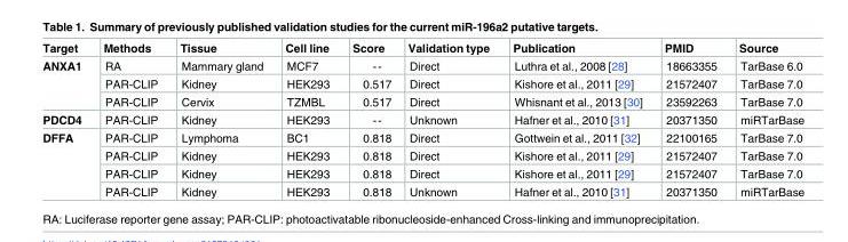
<table><thead><tr><td>Target</td><td>Methods</td><td>Tissue</td><td>Cell line</td><td>Score</td><td>Validation type</td><td>Publication</td><td>PMID</td><td>Source</td></tr></thead><tbody><tr><td rowspan="3">ANXA1</td><td>RA</td><td>Mammary gland</td><td>MCF7</td><td>--</td><td>Direct</td><td>Luthra et al., 2008 [28]</td><td>18663355</td><td>TarBase 6.0</td></tr><tr><td>PAR-CLIP</td><td>Kidney</td><td>HEK293</td><td>0.517</td><td>Direct</td><td>Kishore et al., 2011 [29]</td><td>21572407</td><td>TarBase 7.0</td></tr><tr><td>PAR-CLIP</td><td>Cervix</td><td>TZMBL</td><td>0.517</td><td>Direct</td><td>Whisnant et al., 2013 [30]</td><td>23592263</td><td>TarBase 7.0</td></tr><tr><td>PDCD4</td><td>PAR-CLIP</td><td>Kidney</td><td>HEK293</td><td>--</td><td>Unknown</td><td>Hafner et al., 2010 [31]</td><td>20371350</td><td>miRTarBase</td></tr><tr><td rowspan="4">DFFA</td><td>PAR-CLIP</td><td>Lymphoma</td><td>BC1</td><td>0.818</td><td>Direct</td><td>Gottwein et al., 2011 [32]</td><td>22100165</td><td>TarBase 7.0</td></tr><tr><td>PAR-CLIP</td><td>Kidney</td><td>HEK293</td><td>0.818</td><td>Direct</td><td>Kishore et al., 2011 [29]</td><td>21572407</td><td>TarBase 7.0</td></tr><tr><td>PAR-CLIP</td><td>Kidney</td><td>HEK293</td><td>0.818</td><td>Direct</td><td>Kishore et al., 2011 [29]</td><td>21572407</td><td>TarBase 7.0</td></tr><tr><td>PAR-CLIP</td><td>Kidney</td><td>HEK293</td><td>0.818</td><td>Unknown</td><td>Hafner et al., 2010 [31]</td><td>20371350</td><td>miRTarBase</td></tr></tbody></table>